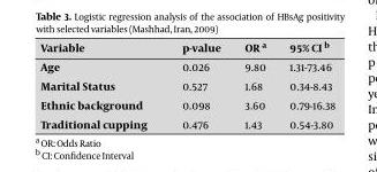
<table><tbody><tr><td>Variable</td><td>p-value</td><td>OR a</td><td>95% CI b</td></tr><tr><td>Age</td><td>0.026</td><td>9.80</td><td>1.31-73.46</td></tr><tr><td>Marital Status</td><td>0.527</td><td>1.68</td><td>0.34-8.43</td></tr><tr><td>Ethnic background</td><td>0.098</td><td>3.60</td><td>0.79-16.38</td></tr><tr><td>Traditional cupping</td><td>0.476</td><td>1.43</td><td>0.54-3.80</td></tr></tbody></table>